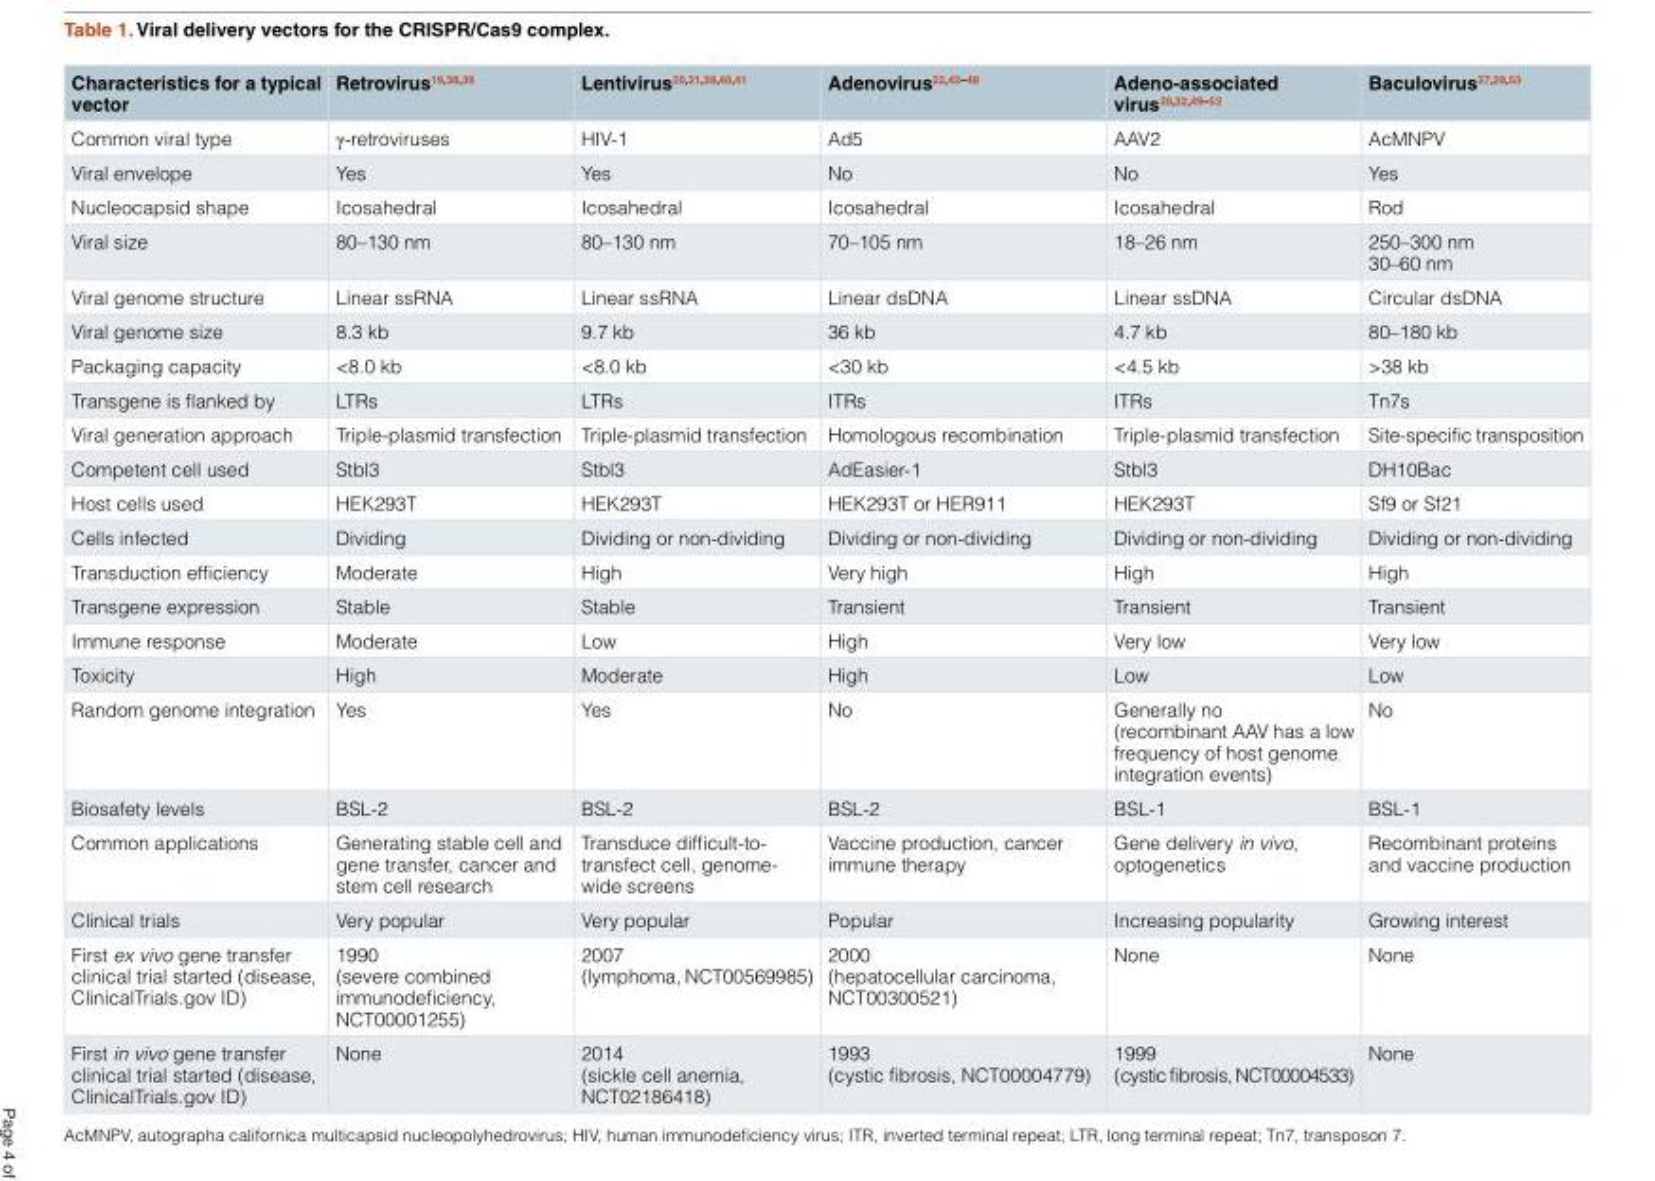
<table><thead><tr><td>Characteristics for a typical vector</td><td>Retrovirus<sup>19,38,39</sup></td><td>Lentivirus<sup>20,21,38,40,41</sup></td><td>Adenovirus<sup>22,42–48</sup></td><td>Adeno-associated virus<sup>30,32,49–52</sup></td><td>Baculovirus<sup>27,29,53</sup></td></tr></thead><tbody><tr><td>Common viral type</td><td>γ-retroviruses</td><td>HIV-1</td><td>Ad5</td><td>AAV2</td><td>AcMNPV</td></tr><tr><td>Viral envelope</td><td>Yes</td><td>Yes</td><td>No</td><td>No</td><td>Yes</td></tr><tr><td>Nucleocapsid shape</td><td>Icosahedral</td><td>Icosahedral</td><td>Icosahedral</td><td>Icosahedral</td><td>Rod</td></tr><tr><td>Viral size</td><td>80–130 nm</td><td>80–130 nm</td><td>70–105 nm</td><td>18–26 nm</td><td>250–300 nm 30–60 nm</td></tr><tr><td>Viral genome structure</td><td>Linear ssRNA</td><td>Linear ssRNA</td><td>Linear dsDNA</td><td>Linear ssDNA</td><td>Circular dsDNA</td></tr><tr><td>Viral genome size</td><td>8.3 kb</td><td>9.7 kb</td><td>36 kb</td><td>4.7 kb</td><td>80–180 kb</td></tr><tr><td>Packaging capacity</td><td>&lt;8.0 kb</td><td>&lt;8.0 kb</td><td>&lt;30 kb</td><td>&lt;4.5 kb</td><td>&gt;38 kb</td></tr><tr><td>Transgene is flanked by</td><td>LTRs</td><td>LTRs</td><td>ITRs</td><td>ITRs</td><td>Tn7s</td></tr><tr><td>Viral generation approach</td><td>Triple-plasmid transfection</td><td>Triple-plasmid transfection</td><td>Homologous recombination</td><td>Triple-plasmid transfection</td><td>Site-specific transposition</td></tr><tr><td>Competent cell used</td><td>Stbl3</td><td>Stbl3</td><td>AdEasier-1</td><td>Stbl3</td><td>DH10Bac</td></tr><tr><td>Host cells used</td><td>HEK293T</td><td>HEK293T</td><td>HEK293T or HER911</td><td>HEK293T</td><td>Sf9 or Sf21</td></tr><tr><td>Cells infected</td><td>Dividing</td><td>Dividing or non-dividing</td><td>Dividing or non-dividing</td><td>Dividing or non-dividing</td><td>Dividing or non-dividing</td></tr><tr><td>Transduction efficiency</td><td>Moderate</td><td>High</td><td>Very high</td><td>High</td><td>High</td></tr><tr><td>Transgene expression</td><td>Stable</td><td>Stable</td><td>Transient</td><td>Transient</td><td>Transient</td></tr><tr><td>Immune response</td><td>Moderate</td><td>Low</td><td>High</td><td>Very low</td><td>Very low</td></tr><tr><td>Toxicity</td><td>High</td><td>Moderate</td><td>High</td><td>Low</td><td>Low</td></tr><tr><td>Random genome integration</td><td>Yes</td><td>Yes</td><td>No</td><td>Generally no (recombinant AAV has a low frequency of host genome integration events)</td><td>No</td></tr><tr><td>Biosafety levels</td><td>BSL-2</td><td>BSL-2</td><td>BSL-2</td><td>BSL-1</td><td>BSL-1</td></tr><tr><td>Common applications</td><td>Generating stable cell and gene transfer, cancer and stem cell research</td><td>Transduce difficult-to- transfect cell, genome- wide screens</td><td>Vaccine production, cancer immune therapy</td><td>Gene delivery in vivo, optogenetics</td><td>Recombinant proteins and vaccine production</td></tr><tr><td>Clinical trials</td><td>Very popular</td><td>Very popular</td><td>Popular</td><td>Increasing popularity</td><td>Growing interest</td></tr><tr><td>First ex vivo gene transfer clinical trial started (disease, ClinicalTrials.gov ID)</td><td>1990 (severe combined immunodeficiency, NCT00001255)</td><td>2007 (lymphoma, NCT00569985)</td><td>2000 (hepatocellular carcinoma, NCT00300521)</td><td>None</td><td>None</td></tr><tr><td>First in vivo gene transfer clinical trial started (disease, ClinicalTrials.gov ID)</td><td>None</td><td>2014 (sickle cell anemia, NCT02186418)</td><td>1993 (cystic fibrosis, NCT00004779)</td><td>1999 (cystic fibrosis, NCT00004533)</td><td>None</td></tr></tbody></table>